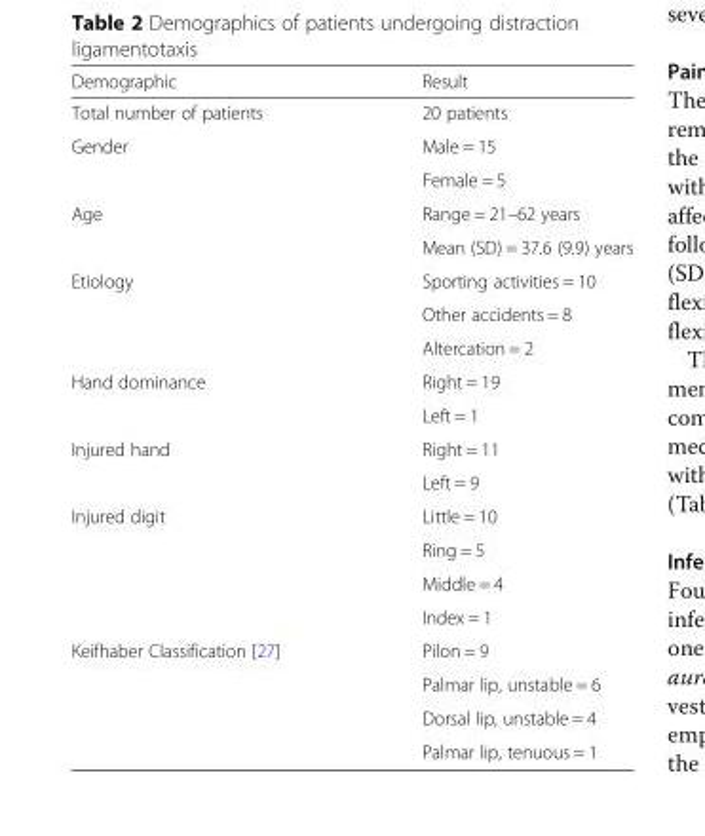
<table><thead><tr><td>Demographic</td><td>Result</td></tr></thead><tbody><tr><td>Total number of patients</td><td>20 patients</td></tr><tr><td rowspan="2">Gender</td><td>Male = 15</td></tr><tr><td>Female = 5</td></tr><tr><td rowspan="2">Age</td><td>Range = 21–62 years</td></tr><tr><td>Mean (SD) = 37.6 (9.9) years</td></tr><tr><td rowspan="3">Etiology</td><td>Sporting activities = 10</td></tr><tr><td>Other accidents = 8</td></tr><tr><td>Altercation = 2</td></tr><tr><td rowspan="2">Hand dominance</td><td>Right = 19</td></tr><tr><td>Left = 1</td></tr><tr><td rowspan="2">Injured hand</td><td>Right = 11</td></tr><tr><td>Left = 9</td></tr><tr><td rowspan="4">Injured digit</td><td>Little = 10</td></tr><tr><td>Ring = 5</td></tr><tr><td>Middle = 4</td></tr><tr><td>Index = 1</td></tr><tr><td rowspan="4">Keifhaber Classification [27]</td><td>Pilon = 9</td></tr><tr><td>Palmar lip, unstable = 6</td></tr><tr><td>Dorsal lip, unstable = 4</td></tr><tr><td>Palmar lip, tenuous = 1</td></tr></tbody></table>